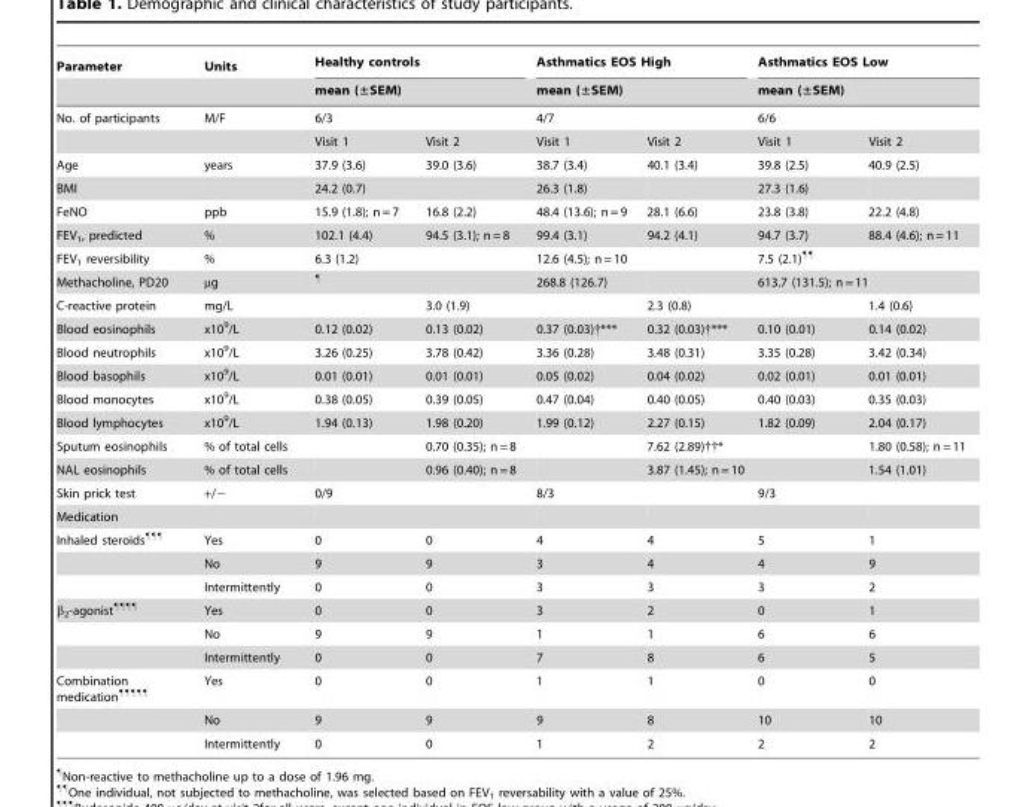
<table><thead><tr><td rowspan="4">Parameter No. of participants</td><td rowspan="4">Units M/F</td><td rowspan="3" colspan="2">Healthy controls mean (±SEM) 6/3</td><td rowspan="3" colspan="2">Asthmatics EOS High mean (±SEM) 4/7</td><td rowspan="3" colspan="2">Asthmatics EOS Low mean (±SEM) 6/6</td></tr><tr></tr><tr></tr><tr><td>Visit 1</td><td>Visit 2</td><td>Visit 1</td><td>Visit 2</td><td>Visit 1</td><td>Visit 2</td></tr></thead><tbody><tr><td>Age</td><td>years</td><td>37.9 (3.6)</td><td>39.0 (3.6)</td><td>38.7 (3.4)</td><td>40.1 (3.4)</td><td>39.8 (2.5)</td><td>40.9 (2.5)</td></tr><tr><td>BMI</td><td></td><td>24.2 (0.7)</td><td></td><td>26.3 (1.8)</td><td></td><td>27.3 (1.6)</td><td></td></tr><tr><td>FeNO</td><td>ppb</td><td>15.9 (1.8); n = 7</td><td>16.8 (2.2)</td><td>48.4 (13.6); n = 9</td><td>28.1 (6.6)</td><td>23.8 (3.8)</td><td>22.2 (4.8)</td></tr><tr><td>FEV<sub>1</sub>, predicted</td><td>%</td><td>102.1 (4.4)</td><td>94.5 (3.1); n = 8</td><td>99.4 (3.1)</td><td>94.2 (4.1)</td><td>94.7 (3.7)</td><td>88.4 (4.6); n = 11</td></tr><tr><td>FEV<sub>1</sub> reversibility</td><td>%</td><td>6.3 (1.2)</td><td></td><td>12.6 (4.5); n = 10</td><td></td><td>7.5 (2.1)¶¶</td><td></td></tr><tr><td>Methacholine, PD20</td><td>µg</td><td>¶</td><td></td><td>268.8 (126.7)</td><td></td><td>613.7 (131.5); n = 11</td><td></td></tr><tr><td>C-reactive protein</td><td>mg/L</td><td></td><td>3.0 (1.9)</td><td></td><td>2.3 (0.8)</td><td></td><td>1.4 (0.6)</td></tr><tr><td>Blood eosinophils</td><td>x10<sup>9</sup>/L</td><td>0.12 (0.02)</td><td>0.13 (0.02)</td><td>0.37 (0.03)†***</td><td>0.32 (0.03)†***</td><td>0.10 (0.01)</td><td>0.14 (0.02)</td></tr><tr><td>Blood neutrophils</td><td>x10<sup>9</sup>/L</td><td>3.26 (0.25)</td><td>3.78 (0.42)</td><td>3.36 (0.28)</td><td>3.48 (0.31)</td><td>3.35 (0.28)</td><td>3.42 (0.34)</td></tr><tr><td>Blood basophils</td><td>x10<sup>9</sup>/L</td><td>0.01 (0.01)</td><td>0.01 (0.01)</td><td>0.05 (0.02)</td><td>0.04 (0.02)</td><td>0.02 (0.01)</td><td>0.01 (0.01)</td></tr><tr><td>Blood monocytes</td><td>x10<sup>9</sup>/L</td><td>0.38 (0.05)</td><td>0.39 (0.05)</td><td>0.47 (0.04)</td><td>0.40 (0.05)</td><td>0.40 (0.03)</td><td>0.35 (0.03)</td></tr><tr><td>Blood lymphocytes</td><td>x10<sup>9</sup>/L</td><td>1.94 (0.13)</td><td>1.98 (0.20)</td><td>1.99 (0.12)</td><td>2.27 (0.15)</td><td>1.82 (0.09)</td><td>2.04 (0.17)</td></tr><tr><td>Sputum eosinophils</td><td>% of total cells</td><td></td><td>0.70 (0.35); n = 8</td><td></td><td>7.62 (2.89)††*</td><td></td><td>1.80 (0.58); n = 11</td></tr><tr><td>NAL eosinophils</td><td>% of total cells</td><td></td><td>0.96 (0.40); n = 8</td><td></td><td>3.87 (1.45); n = 10</td><td></td><td>1.54 (1.01)</td></tr><tr><td>Skin prick test</td><td>+/−</td><td>0/9</td><td></td><td>8/3</td><td></td><td>9/3</td><td></td></tr><tr><td colspan="8">Medication</td></tr><tr><td rowspan="3">Inhaled steroids¶¶¶</td><td>Yes</td><td>0</td><td>0</td><td>4</td><td>4</td><td>5</td><td>1</td></tr><tr><td>No</td><td>9</td><td>9</td><td>3</td><td>4</td><td>4</td><td>9</td></tr><tr><td>Intermittently</td><td>0</td><td>0</td><td>3</td><td>3</td><td>3</td><td>2</td></tr><tr><td rowspan="3">β<sub>2</sub>-agonist¶¶¶¶</td><td>Yes</td><td>0</td><td>0</td><td>3</td><td>2</td><td>0</td><td>1</td></tr><tr><td>No</td><td>9</td><td>9</td><td>1</td><td>1</td><td>6</td><td>6</td></tr><tr><td>Intermittently</td><td>0</td><td>0</td><td>7</td><td>8</td><td>6</td><td>5</td></tr><tr><td rowspan="3">Combination medication¶¶¶¶¶</td><td>Yes</td><td>0</td><td>0</td><td>1</td><td>1</td><td>0</td><td>0</td></tr><tr><td>No</td><td>9</td><td>9</td><td>9</td><td>8</td><td>10</td><td>10</td></tr><tr><td>Intermittently</td><td>0</td><td>0</td><td>1</td><td>2</td><td>2</td><td>2</td></tr></tbody></table>